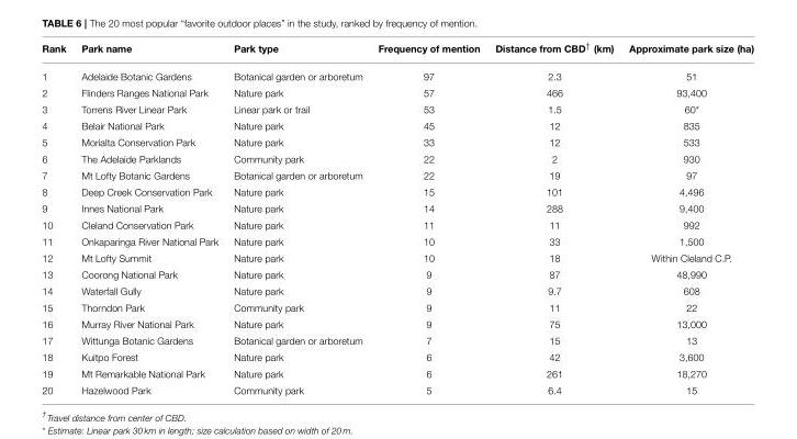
<table><thead><tr><td>Rank</td><td>Park name</td><td>Park type</td><td>Frequency of mention</td><td>Distance from CBD<sup>†</sup> (km)</td><td>Approximate park size (ha)</td></tr></thead><tbody><tr><td>1</td><td>Adelaide Botanic Gardens</td><td>Botanical garden or arboretum</td><td>97</td><td>2.3</td><td>51</td></tr><tr><td>2</td><td>Flinders Ranges National Park</td><td>Nature park</td><td>57</td><td>466</td><td>93,400</td></tr><tr><td>3</td><td>Torrens River Linear Park</td><td>Linear park or trail</td><td>53</td><td>1.5</td><td>60*</td></tr><tr><td>4</td><td>Belair National Park</td><td>Nature park</td><td>45</td><td>12</td><td>835</td></tr><tr><td>5</td><td>Morialta Conservation Park</td><td>Nature park</td><td>33</td><td>12</td><td>533</td></tr><tr><td>6</td><td>The Adelaide Parklands</td><td>Community park</td><td>22</td><td>2</td><td>930</td></tr><tr><td>7</td><td>Mt Lofty Botanic Gardens</td><td>Botanical garden or arboretum</td><td>22</td><td>19</td><td>97</td></tr><tr><td>8</td><td>Deep Creek Conservation Park</td><td>Nature park</td><td>15</td><td>101</td><td>4,496</td></tr><tr><td>9</td><td>Innes National Park</td><td>Nature park</td><td>14</td><td>288</td><td>9,400</td></tr><tr><td>10</td><td>Cleland Conservation Park</td><td>Nature park</td><td>11</td><td>11</td><td>992</td></tr><tr><td>11</td><td>Onkaparinga River National Park</td><td>Nature park</td><td>10</td><td>33</td><td>1,500</td></tr><tr><td>12</td><td>Mt Lofty Summit</td><td>Nature park</td><td>10</td><td>18</td><td>Within Cleland C.P.</td></tr><tr><td>13</td><td>Coorong National Park</td><td>Nature park</td><td>9</td><td>87</td><td>48,990</td></tr><tr><td>14</td><td>Waterfall Gully</td><td>Nature park</td><td>9</td><td>9.7</td><td>608</td></tr><tr><td>15</td><td>Thorndon Park</td><td>Community park</td><td>9</td><td>11</td><td>22</td></tr><tr><td>16</td><td>Murray River National Park</td><td>Nature park</td><td>9</td><td>75</td><td>13,000</td></tr><tr><td>17</td><td>Wittunga Botanic Gardens</td><td>Botanical garden or arboretum</td><td>7</td><td>15</td><td>13</td></tr><tr><td>18</td><td>Kuitpo Forest</td><td>Nature park</td><td>6</td><td>42</td><td>3,600</td></tr><tr><td>19</td><td>Mt Remarkable National Park</td><td>Nature park</td><td>6</td><td>261</td><td>18,270</td></tr><tr><td>20</td><td>Hazelwood Park</td><td>Community park</td><td>5</td><td>6.4</td><td>15</td></tr></tbody></table>